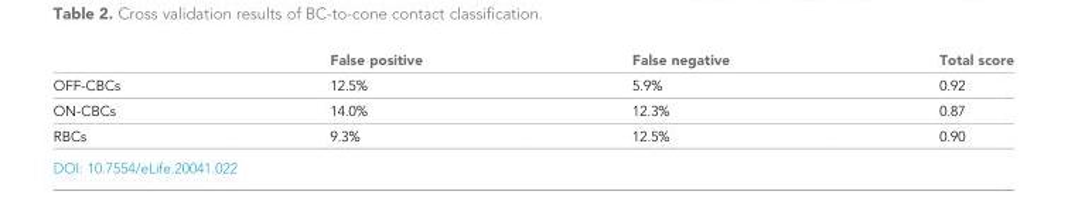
<table><thead><tr><td></td><td>False positive</td><td>False negative</td><td>Total score</td></tr></thead><tbody><tr><td>OFF-CBCs</td><td>12.5%</td><td>5.9%</td><td>0.92</td></tr><tr><td>ON-CBCs</td><td>14.0%</td><td>12.3%</td><td>0.87</td></tr><tr><td>RBCs</td><td>9.3%</td><td>12.5%</td><td>0.90</td></tr></tbody></table>